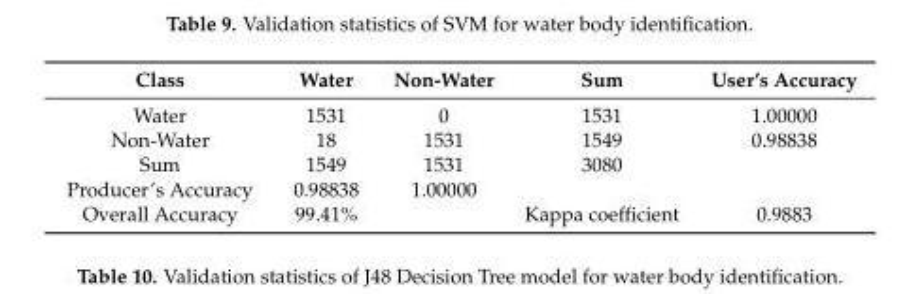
<table><thead><tr><td>Class</td><td>Water</td><td>Non-Water</td><td>Sum</td><td>User’s Accuracy</td></tr></thead><tbody><tr><td>Water</td><td>1531</td><td>0</td><td>1531</td><td>1.00000</td></tr><tr><td>Non-Water</td><td>18</td><td>1531</td><td>1549</td><td>0.98838</td></tr><tr><td>Sum</td><td>1549</td><td>1531</td><td>3080</td><td></td></tr><tr><td>Producer’s Accuracy</td><td>0.98838</td><td>1.00000</td><td></td><td></td></tr><tr><td>Overall Accuracy</td><td>99.41%</td><td></td><td>Kappa coefficient</td><td>0.9883</td></tr></tbody></table>